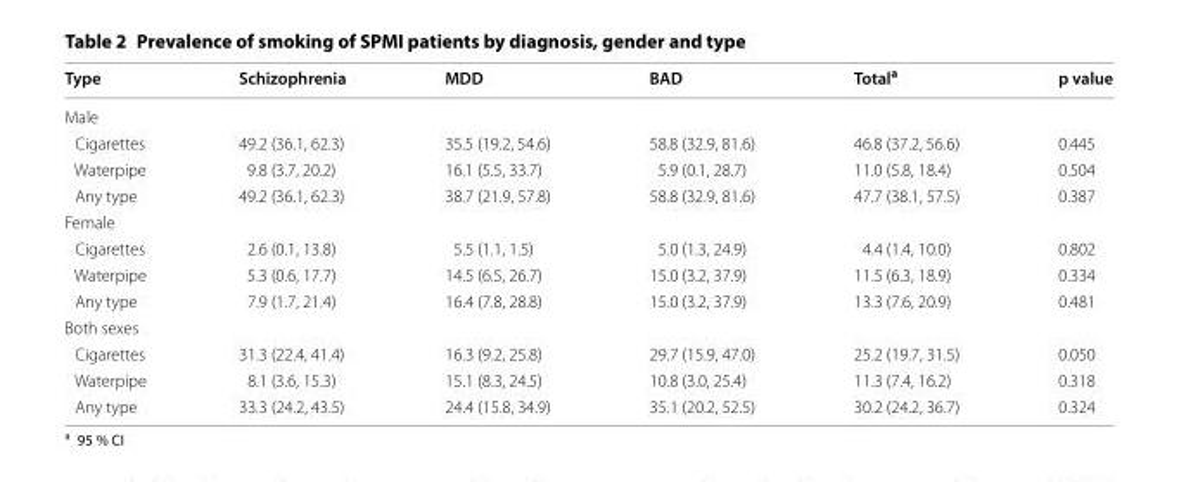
<table><thead><tr><td>Type</td><td>Schizophrenia</td><td>MDD</td><td>BAD</td><td>Total<sup>a</sup></td><td>p value</td></tr></thead><tbody><tr><td colspan="6">Male</td></tr><tr><td>Cigarettes</td><td>49.2 (36.1, 62.3)</td><td>35.5 (19.2, 54.6)</td><td>58.8 (32.9, 81.6)</td><td>46.8 (37.2, 56.6)</td><td>0.445</td></tr><tr><td>Waterpipe</td><td>9.8 (3.7, 20.2)</td><td>16.1 (5.5, 33.7)</td><td>5.9 (0.1, 28.7)</td><td>11.0 (5.8, 18.4)</td><td>0.504</td></tr><tr><td>Any type</td><td>49.2 (36.1, 62.3)</td><td>38.7 (21.9, 57.8)</td><td>58.8 (32.9, 81.6)</td><td>47.7 (38.1, 57.5)</td><td>0.387</td></tr><tr><td colspan="6">Female</td></tr><tr><td>Cigarettes</td><td>2.6 (0.1, 13.8)</td><td>5.5 (1.1, 1.5)</td><td>5.0 (1.3, 24.9)</td><td>4.4 (1.4, 10.0)</td><td>0.802</td></tr><tr><td>Waterpipe</td><td>5.3 (0.6, 17.7)</td><td>14.5 (6.5, 26.7)</td><td>15.0 (3.2, 37.9)</td><td>11.5 (6.3, 18.9)</td><td>0.334</td></tr><tr><td>Any type</td><td>7.9 (1.7, 21.4)</td><td>16.4 (7.8, 28.8)</td><td>15.0 (3.2, 37.9)</td><td>13.3 (7.6, 20.9)</td><td>0.481</td></tr><tr><td colspan="6">Both sexes</td></tr><tr><td>Cigarettes</td><td>31.3 (22.4, 41.4)</td><td>16.3 (9.2, 25.8)</td><td>29.7 (15.9, 47.0)</td><td>25.2 (19.7, 31.5)</td><td>0.050</td></tr><tr><td>Waterpipe</td><td>8.1 (3.6, 15.3)</td><td>15.1 (8.3, 24.5)</td><td>10.8 (3.0, 25.4)</td><td>11.3 (7.4, 16.2)</td><td>0.318</td></tr><tr><td>Any type</td><td>33.3 (24.2, 43.5)</td><td>24.4 (15.8, 34.9)</td><td>35.1 (20.2, 52.5)</td><td>30.2 (24.2, 36.7)</td><td>0.324</td></tr></tbody></table>